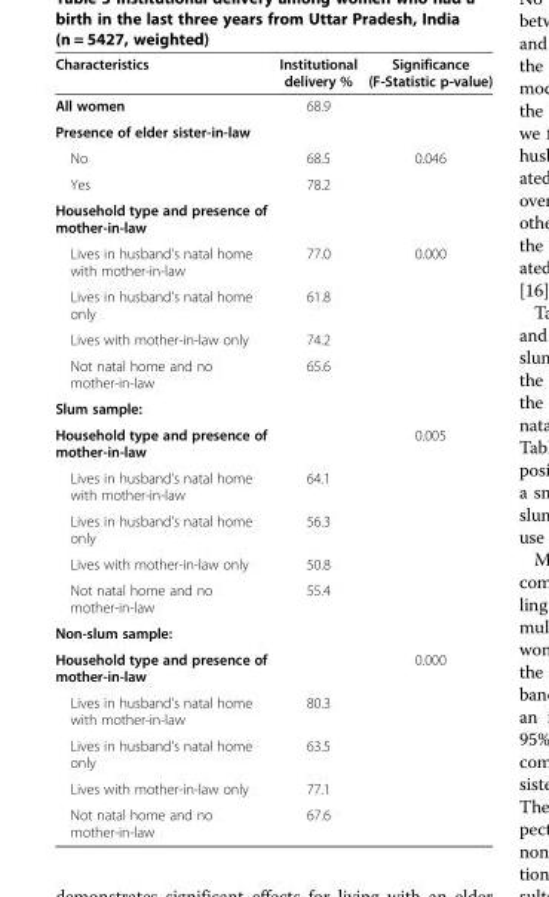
<table><thead><tr><td>Characteristics</td><td>Institutional delivery %</td><td>Significance (F-Statistic p-value)</td></tr></thead><tbody><tr><td>All women</td><td>68.9</td><td></td></tr><tr><td colspan="3">Presence of elder sister-in-law</td></tr><tr><td>No</td><td>68.5</td><td>0.046</td></tr><tr><td>Yes</td><td>78.2</td><td></td></tr><tr><td colspan="3">Household type and presence of mother-in-law</td></tr><tr><td>Lives in husband’s natal home with mother-in-law</td><td>77.0</td><td>0.000</td></tr><tr><td>Lives in husband’s natal home only</td><td>61.8</td><td></td></tr><tr><td>Lives with mother-in-law only</td><td>74.2</td><td></td></tr><tr><td>Not natal home and no mother-in-law</td><td>65.6</td><td></td></tr><tr><td colspan="3">Slum sample:</td></tr><tr><td>Household type and presence of mother-in-law</td><td></td><td>0.005</td></tr><tr><td>Lives in husband’s natal home with mother-in-law</td><td>64.1</td><td></td></tr><tr><td>Lives in husband’s natal home only</td><td>56.3</td><td></td></tr><tr><td>Lives with mother-in-law only</td><td>50.8</td><td></td></tr><tr><td>Not natal home and no mother-in-law</td><td>55.4</td><td></td></tr><tr><td colspan="3">Non-slum sample:</td></tr><tr><td>Household type and presence of mother-in-law</td><td></td><td>0.000</td></tr><tr><td>Lives in husband’s natal home with mother-in-law</td><td>80.3</td><td></td></tr><tr><td>Lives in husband’s natal home only</td><td>63.5</td><td></td></tr><tr><td>Lives with mother-in-law only</td><td>77.1</td><td></td></tr><tr><td>Not natal home and no mother-in-law</td><td>67.6</td><td></td></tr></tbody></table>